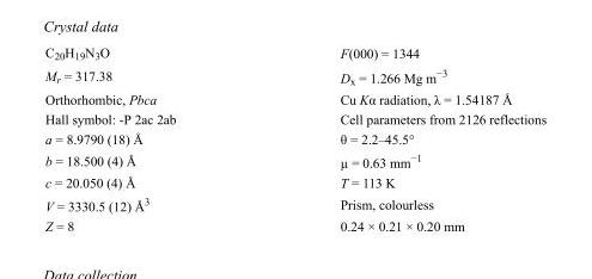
<table><tbody><tr><td>C<sub>20</sub>H<sub>19</sub>N<sub>3</sub>O</td><td>F(000) = 1344</td></tr><tr><td>M<sub>r</sub> = 317.38</td><td>D<sub>x</sub> = 1.266 Mg m<sup>−3</sup></td></tr><tr><td>Orthorhombic, Pbca</td><td>Cu Kα radiation, λ = 1.54187 Å</td></tr><tr><td>Hall symbol: -P 2ac 2ab</td><td>Cell parameters from 2126 reflections</td></tr><tr><td>a = 8.9790 (18) Å</td><td>θ = 2.2–45.5°</td></tr><tr><td>b = 18.500 (4) Å</td><td>µ = 0.63 mm<sup>−1</sup></td></tr><tr><td>c = 20.050 (4) Å</td><td>T = 113 K</td></tr><tr><td>V = 3330.5 (12) Å<sup>3</sup></td><td>Prism, colourless</td></tr><tr><td>Z = 8</td><td>0.24 × 0.21 × 0.20 mm</td></tr></tbody></table>